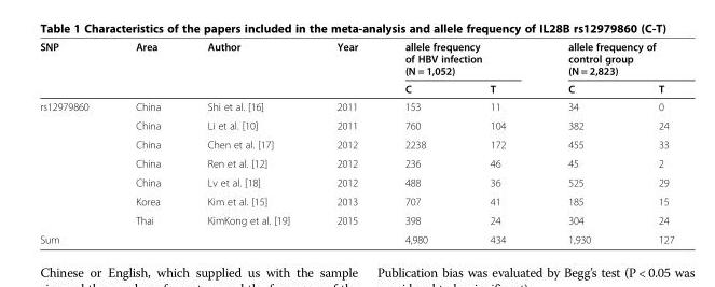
<table><thead><tr><td rowspan="2">SNP</td><td rowspan="2">Area</td><td rowspan="2">Author</td><td rowspan="2">Year</td><td colspan="2">allele frequency of HBV infection (N = 1,052)</td><td colspan="2">allele frequency of control group (N = 2,823)</td></tr><tr><td>C</td><td>T</td><td>C</td><td>T</td></tr></thead><tbody><tr><td rowspan="7">rs12979860</td><td>China</td><td>Shi et al. [16]</td><td>2011</td><td>153</td><td>11</td><td>34</td><td>0</td></tr><tr><td>China</td><td>Li et al. [10]</td><td>2011</td><td>760</td><td>104</td><td>382</td><td>24</td></tr><tr><td>China</td><td>Chen et al. [17]</td><td>2012</td><td>2238</td><td>172</td><td>455</td><td>33</td></tr><tr><td>China</td><td>Ren et al. [12]</td><td>2012</td><td>236</td><td>46</td><td>45</td><td>2</td></tr><tr><td>China</td><td>Lv et al. [18]</td><td>2012</td><td>488</td><td>36</td><td>525</td><td>29</td></tr><tr><td>Korea</td><td>Kim et al. [15]</td><td>2013</td><td>707</td><td>41</td><td>185</td><td>15</td></tr><tr><td>Thai</td><td>KimKong et al. [19]</td><td>2015</td><td>398</td><td>24</td><td>304</td><td>24</td></tr><tr><td>Sum</td><td></td><td></td><td></td><td>4,980</td><td>434</td><td>1,930</td><td>127</td></tr></tbody></table>